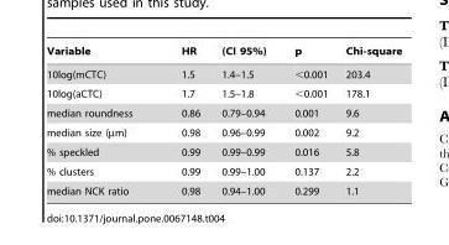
<table><thead><tr><td>Variable</td><td>HR</td><td>(CI 95%)</td><td>p</td><td>Chi-square</td></tr></thead><tbody><tr><td>10log(mCTC)</td><td>1.5</td><td>1.4–1.5</td><td>&lt;0.001</td><td>203.4</td></tr><tr><td>10log(aCTC)</td><td>1.7</td><td>1.5–1.8</td><td>&lt;0.001</td><td>178.1</td></tr><tr><td>median roundness</td><td>0.86</td><td>0.79–0.94</td><td>0.001</td><td>9.6</td></tr><tr><td>median size (µm)</td><td>0.98</td><td>0.96–0.99</td><td>0.002</td><td>9.2</td></tr><tr><td>% speckled</td><td>0.99</td><td>0.99–0.99</td><td>0.016</td><td>5.8</td></tr><tr><td>% clusters</td><td>0.99</td><td>0.99–1.00</td><td>0.137</td><td>2.2</td></tr><tr><td>median NCK ratio</td><td>0.98</td><td>0.94–1.00</td><td>0.299</td><td>1.1</td></tr></tbody></table>